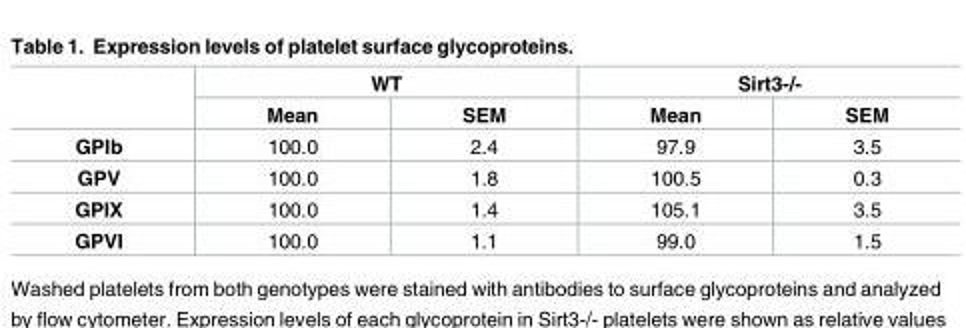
<table><thead><tr><td rowspan="2"></td><td colspan="2">WT</td><td colspan="2">Sirt3-/-</td></tr><tr><td>Mean</td><td>SEM</td><td>Mean</td><td>SEM</td></tr></thead><tbody><tr><td>GPIb</td><td>100.0</td><td>2.4</td><td>97.9</td><td>3.5</td></tr><tr><td>GPV</td><td>100.0</td><td>1.8</td><td>100.5</td><td>0.3</td></tr><tr><td>GPIX</td><td>100.0</td><td>1.4</td><td>105.1</td><td>3.5</td></tr><tr><td>GPVI</td><td>100.0</td><td>1.1</td><td>99.0</td><td>1.5</td></tr></tbody></table>